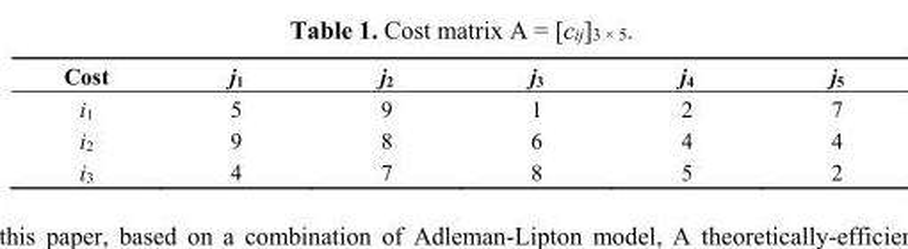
<table><thead><tr><td>Cost</td><td>j<sub>1</sub></td><td>j<sub>2</sub></td><td>j<sub>3</sub></td><td>j<sub>4</sub></td><td>j<sub>5</sub></td></tr></thead><tbody><tr><td>i<sub>1</sub></td><td>5</td><td>9</td><td>1</td><td>2</td><td>7</td></tr><tr><td>i<sub>2</sub></td><td>9</td><td>8</td><td>6</td><td>4</td><td>4</td></tr><tr><td>i<sub>3</sub></td><td>4</td><td>7</td><td>8</td><td>5</td><td>2</td></tr></tbody></table>